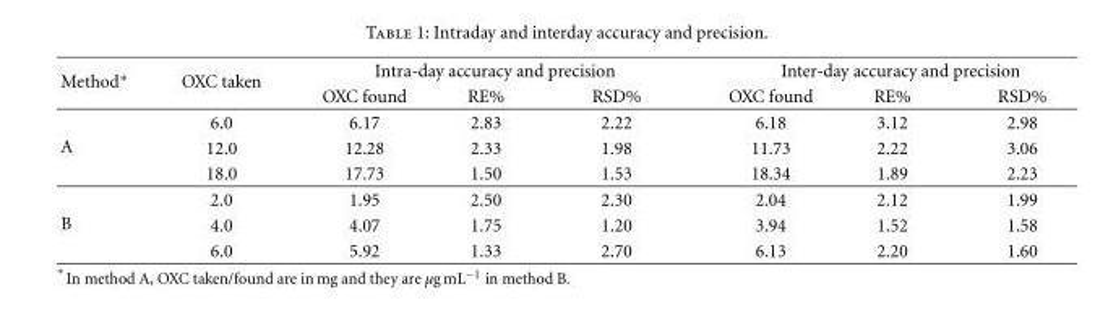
<table><thead><tr><td rowspan="2">Method∗</td><td rowspan="2">OXC taken</td><td colspan="3">Intra-day accuracy and precision</td><td colspan="3">Inter-day accuracy and precision</td></tr><tr><td>OXC found</td><td>RE%</td><td>RSD%</td><td>OXC found</td><td>RE%</td><td>RSD%</td></tr></thead><tbody><tr><td rowspan="3">A</td><td>6.0</td><td>6.17</td><td>2.83</td><td>2.22</td><td>6.18</td><td>3.12</td><td>2.98</td></tr><tr><td>12.0</td><td>12.28</td><td>2.33</td><td>1.98</td><td>11.73</td><td>2.22</td><td>3.06</td></tr><tr><td>18.0</td><td>17.73</td><td>1.50</td><td>1.53</td><td>18.34</td><td>1.89</td><td>2.23</td></tr><tr><td rowspan="3">B</td><td>2.0</td><td>1.95</td><td>2.50</td><td>2.30</td><td>2.04</td><td>2.12</td><td>1.99</td></tr><tr><td>4.0</td><td>4.07</td><td>1.75</td><td>1.20</td><td>3.94</td><td>1.52</td><td>1.58</td></tr><tr><td>6.0</td><td>5.92</td><td>1.33</td><td>2.70</td><td>6.13</td><td>2.20</td><td>1.60</td></tr></tbody></table>